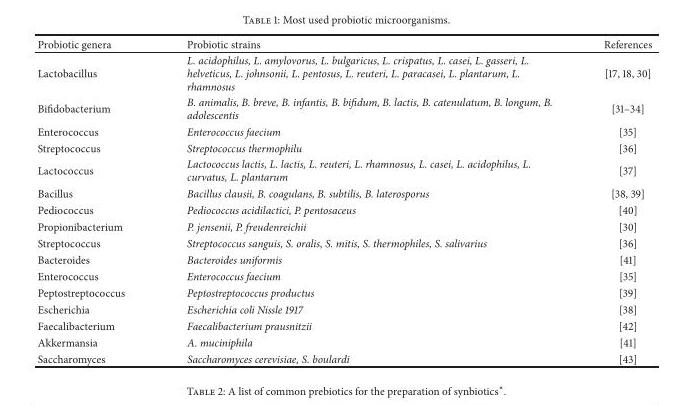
<table><thead><tr><td>Probiotic genera</td><td>Probiotic strains</td><td>References</td></tr></thead><tbody><tr><td>Lactobacillus</td><td>L. acidophilus, L. amylovorus, L. bulgaricus, L. crispatus, L. casei, L. gasseri, L. helveticus, L. johnsonii, L. pentosus, L. reuteri, L. paracasei, L. plantarum, L. rhamnosus</td><td>[17, 18, 30]</td></tr><tr><td>Bifidobacterium</td><td>B. animalis, B. breve, B. infantis, B. bifidum, B. lactis, B. catenulatum, B. longum, B. adolescentis</td><td>[31–34]</td></tr><tr><td>Enterococcus</td><td>Enterococcus faecium</td><td>[35]</td></tr><tr><td>Streptococcus</td><td>Streptococcus thermophilu</td><td>[36]</td></tr><tr><td>Lactococcus</td><td>Lactococcus lactis, L. lactis, L. reuteri, L. rhamnosus, L. casei, L. acidophilus, L. curvatus, L. plantarum</td><td>[37]</td></tr><tr><td>Bacillus</td><td>Bacillus clausii, B. coagulans, B. subtilis, B. laterosporus</td><td>[38, 39]</td></tr><tr><td>Pediococcus</td><td>Pediococcus acidilactici, P. pentosaceus</td><td>[40]</td></tr><tr><td>Propionibacterium</td><td>P. jensenii, P. freudenreichii</td><td>[30]</td></tr><tr><td>Streptococcus</td><td>Streptococcus sanguis, S. oralis, S. mitis, S. thermophiles, S. salivarius</td><td>[36]</td></tr><tr><td>Bacteroides</td><td>Bacteroides uniformis</td><td>[41]</td></tr><tr><td>Enterococcus</td><td>Enterococcus faecium</td><td>[35]</td></tr><tr><td>Peptostreptococcus</td><td>Peptostreptococcus productus</td><td>[39]</td></tr><tr><td>Escherichia</td><td>Escherichia coli Nissle 1917</td><td>[38]</td></tr><tr><td>Faecalibacterium</td><td>Faecalibacterium prausnitzii</td><td>[42]</td></tr><tr><td>Akkermansia</td><td>A. muciniphila</td><td>[41]</td></tr><tr><td>Saccharomyces</td><td>Saccharomyces cerevisiae, S. boulardi</td><td>[43]</td></tr></tbody></table>